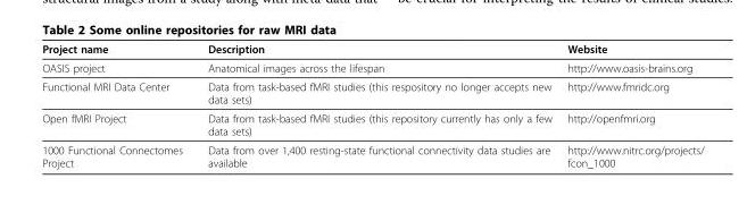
<table><thead><tr><td>Project name</td><td>Description</td><td>Website</td></tr></thead><tbody><tr><td>OASIS project</td><td>Anatomical images across the lifespan</td><td>http://www.oasis-brains.org</td></tr><tr><td>Functional MRI Data Center</td><td>Data from task-based fMRI studies (this respository no longer accepts new data sets)</td><td>http://www.fmridc.org</td></tr><tr><td>Open fMRI Project</td><td>Data from task-based fMRI studies (this repository currently has only a few data sets)</td><td>http://openfmri.org</td></tr><tr><td>1000 Functional Connectomes Project</td><td>Data from over 1,400 resting-state functional connectivity data studies are available</td><td>http://www.nitrc.org/projects/ fcon_1000</td></tr></tbody></table>